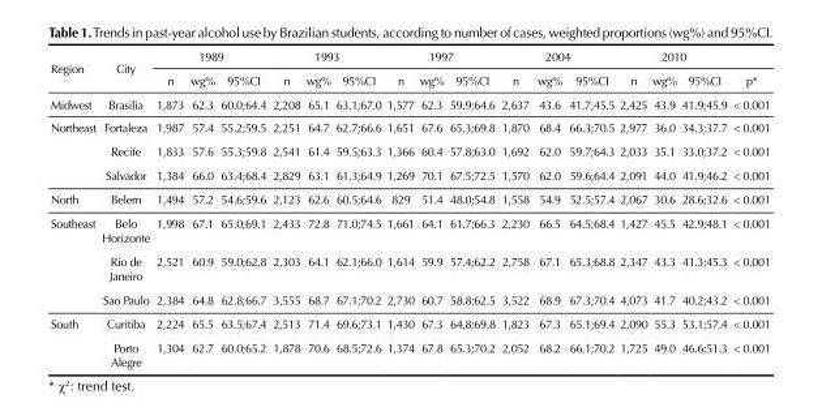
<table><thead><tr><td rowspan="2">Region</td><td rowspan="2">City</td><td colspan="3">1989</td><td colspan="3">1993</td><td colspan="3">1997</td><td colspan="3">2004</td><td colspan="3">2010</td><td rowspan="2">p*</td></tr><tr><td>n</td><td>wg%</td><td>95%CI</td><td>n</td><td>wg%</td><td>95%CI</td><td>n</td><td>wg%</td><td>95%CI</td><td>n</td><td>wg%</td><td>95%CI</td><td>n</td><td>wg%</td><td>95%CI</td></tr></thead><tbody><tr><td>Midwest</td><td>Brasilia</td><td>1,873</td><td>62.3</td><td>60.0;64.4</td><td>2,208</td><td>65.1</td><td>63.1;67.0</td><td>1,577</td><td>62.3</td><td>59.9;64.6</td><td>2,637</td><td>43.6</td><td>41.7;45.5</td><td>2,425</td><td>43.9</td><td>41.9;45.9</td><td>&lt; 0.001</td></tr><tr><td rowspan="3">Northeast</td><td>Fortaleza</td><td>1,987</td><td>57.4</td><td>55.2;59.5</td><td>2,251</td><td>64.7</td><td>62.7;66.6</td><td>1,651</td><td>67.6</td><td>65.3;69.8</td><td>1,870</td><td>68.4</td><td>66.3;70.5</td><td>2,977</td><td>36.0</td><td>34.3;37.7</td><td>&lt; 0.001</td></tr><tr><td>Recife</td><td>1,833</td><td>57.6</td><td>55.3;59.8</td><td>2,541</td><td>61.4</td><td>59.5;63.3</td><td>1,366</td><td>60.4</td><td>57.8;63.0</td><td>1,692</td><td>62.0</td><td>59.7;64.3</td><td>2,033</td><td>35.1</td><td>33.0;37.2</td><td>&lt; 0.001</td></tr><tr><td>Salvador</td><td>1,384</td><td>66.0</td><td>63.4;68.4</td><td>2,829</td><td>63.1</td><td>61.3;64.9</td><td>1,269</td><td>70.1</td><td>67.5;72.5</td><td>1,570</td><td>62.0</td><td>59.6;64.4</td><td>2,091</td><td>44.0</td><td>41.9;46.2</td><td>&lt; 0.001</td></tr><tr><td>North</td><td>Belem</td><td>1,494</td><td>57.2</td><td>54.6;59.6</td><td>2,123</td><td>62.6</td><td>60.5;64.6</td><td>829</td><td>51.4</td><td>48.0;54.8</td><td>1,558</td><td>54.9</td><td>52.5;57.4</td><td>2,067</td><td>30.6</td><td>28.6;32.6</td><td>&lt; 0.001</td></tr><tr><td rowspan="3">Southeast</td><td>Belo Horizonte</td><td>1,998</td><td>67.1</td><td>65.0;69.1</td><td>2,433</td><td>72.8</td><td>71.0;74.5</td><td>1,661</td><td>64.1</td><td>61.7;66.3</td><td>2,230</td><td>66.5</td><td>64.5;68.4</td><td>1,427</td><td>45.5</td><td>42.9;48.1</td><td>&lt; 0.001</td></tr><tr><td>Rio de Janeiro</td><td>2,521</td><td>60.9</td><td>59.0;62.8</td><td>2,303</td><td>64.1</td><td>62.1;66.0</td><td>1,614</td><td>59.9</td><td>57.4;62.2</td><td>2,758</td><td>67.1</td><td>65.3;68.8</td><td>2,347</td><td>43.3</td><td>41.3;45.3</td><td>&lt; 0.001</td></tr><tr><td>Sao Paulo</td><td>2,384</td><td>64.8</td><td>62.8;66.7</td><td>3,555</td><td>68.7</td><td>67.1;70.2</td><td>2,730</td><td>60.7</td><td>58.8;62.5</td><td>3,522</td><td>68.9</td><td>67.3;70.4</td><td>4,073</td><td>41.7</td><td>40.2;43.2</td><td>&lt; 0.001</td></tr><tr><td rowspan="2">South</td><td>Curitiba</td><td>2,224</td><td>65.5</td><td>63.5;67.4</td><td>2,513</td><td>71.4</td><td>69.6;73.1</td><td>1,430</td><td>67.3</td><td>64.8;69.8</td><td>1,823</td><td>67.3</td><td>65.1;69.4</td><td>2,090</td><td>55.3</td><td>53.1;57.4</td><td>&lt; 0.001</td></tr><tr><td>Porto Alegre</td><td>1,304</td><td>62.7</td><td>60.0;65.2</td><td>1,878</td><td>70.6</td><td>68.5;72.6</td><td>1,374</td><td>67.8</td><td>65.3;70.2</td><td>2,052</td><td>68.2</td><td>66.1;70.2</td><td>1,725</td><td>49.0</td><td>46.6;51.3</td><td>&lt; 0.001</td></tr></tbody></table>